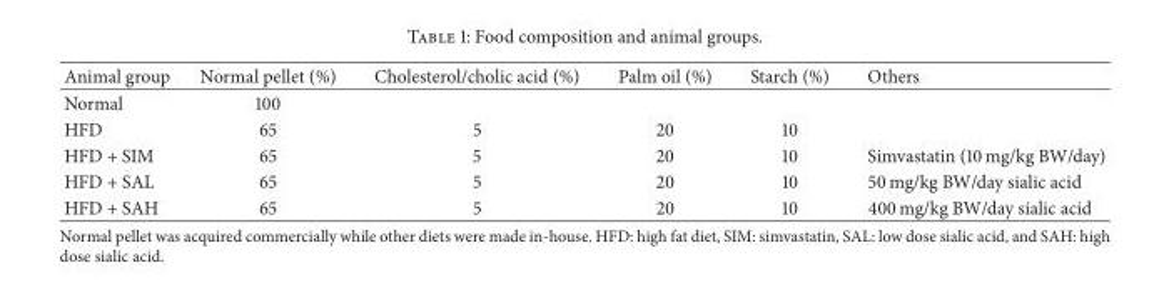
<table><thead><tr><td>Animal group</td><td>Normal pellet (%)</td><td>Cholesterol/cholic acid (%)</td><td>Palm oil (%)</td><td>Starch (%)</td><td>Others</td></tr></thead><tbody><tr><td>Normal</td><td>100</td><td></td><td></td><td></td><td></td></tr><tr><td>HFD</td><td>65</td><td>5</td><td>20</td><td>10</td><td></td></tr><tr><td>HFD + SIM</td><td>65</td><td>5</td><td>20</td><td>10</td><td>Simvastatin (10 mg/kg BW/day)</td></tr><tr><td>HFD + SAL</td><td>65</td><td>5</td><td>20</td><td>10</td><td>50 mg/kg BW/day sialic acid</td></tr><tr><td>HFD + SAH</td><td>65</td><td>5</td><td>20</td><td>10</td><td>400 mg/kg BW/day sialic acid</td></tr></tbody></table>